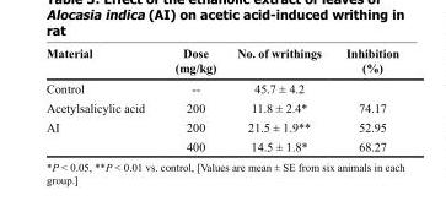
<table><thead><tr><td>Material</td><td>Dose (mg/kg)</td><td>No. of writhings</td><td>Inhibition (%)</td></tr></thead><tbody><tr><td>Control</td><td>--</td><td>45.7 ± 4.2</td><td></td></tr><tr><td>Acetylsalicylic acid</td><td>200</td><td>11.8 ± 2.4*</td><td>74.17</td></tr><tr><td rowspan="2">AI</td><td>200</td><td>21.5 ± 1.9**</td><td>52.95</td></tr><tr><td>400</td><td>14.5 ± 1.8*</td><td>68.27</td></tr></tbody></table>